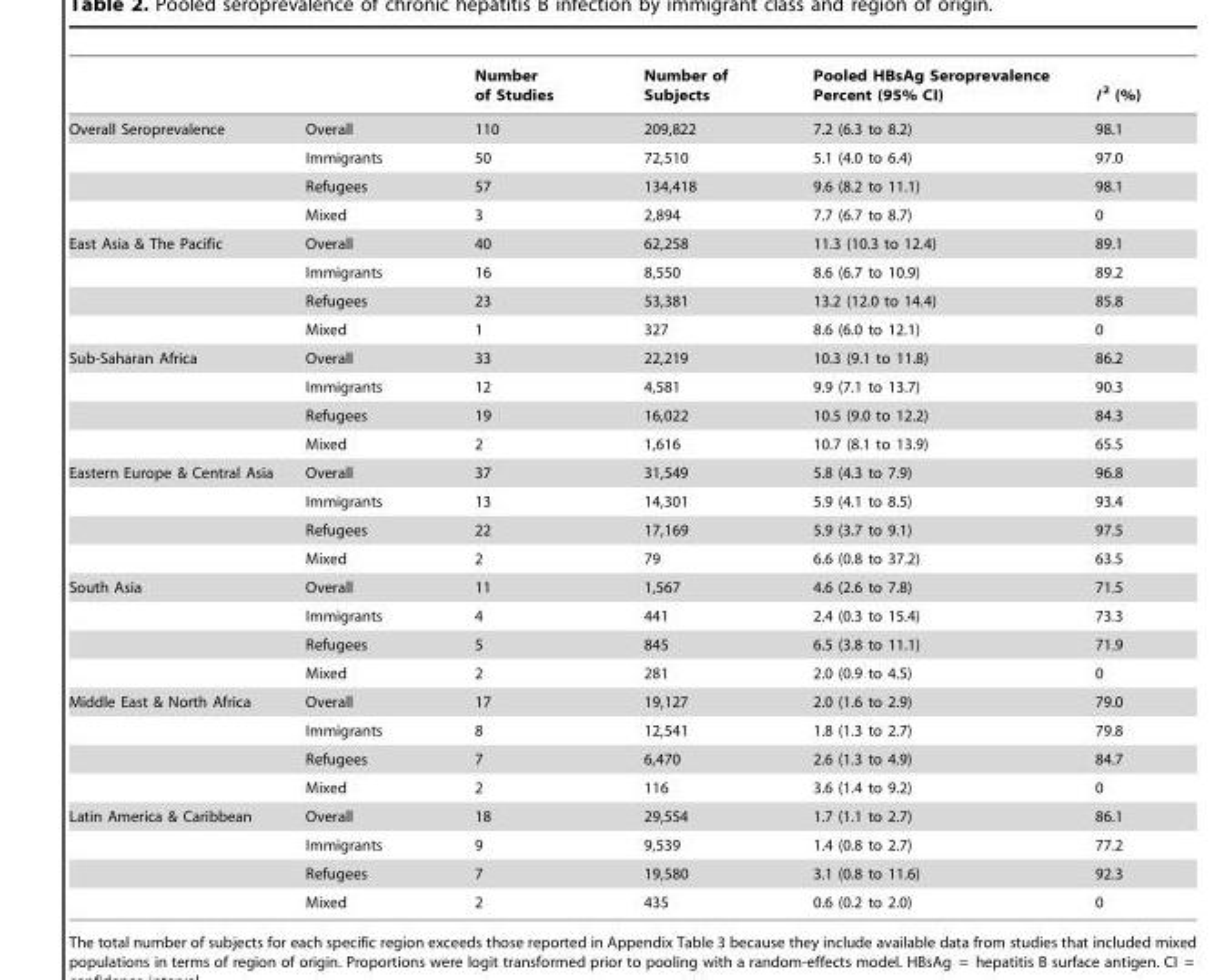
<table><thead><tr><td></td><td></td><td>Number of Studies</td><td>Number of Subjects</td><td>Pooled HBsAg Seroprevalence Percent (95% CI)</td><td>I <sup>2</sup> (%)</td></tr></thead><tbody><tr><td rowspan="4">Overall Seroprevalence</td><td>Overall</td><td>110</td><td>209,822</td><td>7.2 (6.3 to 8.2)</td><td>98.1</td></tr><tr><td>Immigrants</td><td>50</td><td>72,510</td><td>5.1 (4.0 to 6.4)</td><td>97.0</td></tr><tr><td>Refugees</td><td>57</td><td>134,418</td><td>9.6 (8.2 to 11.1)</td><td>98.1</td></tr><tr><td>Mixed</td><td>3</td><td>2,894</td><td>7.7 (6.7 to 8.7)</td><td>0</td></tr><tr><td rowspan="4">East Asia &amp; The Pacific</td><td>Overall</td><td>40</td><td>62,258</td><td>11.3 (10.3 to 12.4)</td><td>89.1</td></tr><tr><td>Immigrants</td><td>16</td><td>8,550</td><td>8.6 (6.7 to 10.9)</td><td>89.2</td></tr><tr><td>Refugees</td><td>23</td><td>53,381</td><td>13.2 (12.0 to 14.4)</td><td>85.8</td></tr><tr><td>Mixed</td><td>1</td><td>327</td><td>8.6 (6.0 to 12.1)</td><td>0</td></tr><tr><td rowspan="4">Sub-Saharan Africa</td><td>Overall</td><td>33</td><td>22,219</td><td>10.3 (9.1 to 11.8)</td><td>86.2</td></tr><tr><td>Immigrants</td><td>12</td><td>4,581</td><td>9.9 (7.1 to 13.7)</td><td>90.3</td></tr><tr><td>Refugees</td><td>19</td><td>16,022</td><td>10.5 (9.0 to 12.2)</td><td>84.3</td></tr><tr><td>Mixed</td><td>2</td><td>1,616</td><td>10.7 (8.1 to 13.9)</td><td>65.5</td></tr><tr><td rowspan="4">Eastern Europe &amp; Central Asia</td><td>Overall</td><td>37</td><td>31,549</td><td>5.8 (4.3 to 7.9)</td><td>96.8</td></tr><tr><td>Immigrants</td><td>13</td><td>14,301</td><td>5.9 (4.1 to 8.5)</td><td>93.4</td></tr><tr><td>Refugees</td><td>22</td><td>17,169</td><td>5.9 (3.7 to 9.1)</td><td>97.5</td></tr><tr><td>Mixed</td><td>2</td><td>79</td><td>6.6 (0.8 to 37.2)</td><td>63.5</td></tr><tr><td rowspan="4">South Asia</td><td>Overall</td><td>11</td><td>1,567</td><td>4.6 (2.6 to 7.8)</td><td>71.5</td></tr><tr><td>Immigrants</td><td>4</td><td>441</td><td>2.4 (0.3 to 15.4)</td><td>73.3</td></tr><tr><td>Refugees</td><td>5</td><td>845</td><td>6.5 (3.8 to 11.1)</td><td>71.9</td></tr><tr><td>Mixed</td><td>2</td><td>281</td><td>2.0 (0.9 to 4.5)</td><td>0</td></tr><tr><td rowspan="4">Middle East &amp; North Africa</td><td>Overall</td><td>17</td><td>19,127</td><td>2.0 (1.6 to 2.9)</td><td>79.0</td></tr><tr><td>Immigrants</td><td>8</td><td>12,541</td><td>1.8 (1.3 to 2.7)</td><td>79.8</td></tr><tr><td>Refugees</td><td>7</td><td>6,470</td><td>2.6 (1.3 to 4.9)</td><td>84.7</td></tr><tr><td>Mixed</td><td>2</td><td>116</td><td>3.6 (1.4 to 9.2)</td><td>0</td></tr><tr><td rowspan="4">Latin America &amp; Caribbean</td><td>Overall</td><td>18</td><td>29,554</td><td>1.7 (1.1 to 2.7)</td><td>86.1</td></tr><tr><td>Immigrants</td><td>9</td><td>9,539</td><td>1.4 (0.8 to 2.7)</td><td>77.2</td></tr><tr><td>Refugees</td><td>7</td><td>19,580</td><td>3.1 (0.8 to 11.6)</td><td>92.3</td></tr><tr><td>Mixed</td><td>2</td><td>435</td><td>0.6 (0.2 to 2.0)</td><td>0</td></tr></tbody></table>